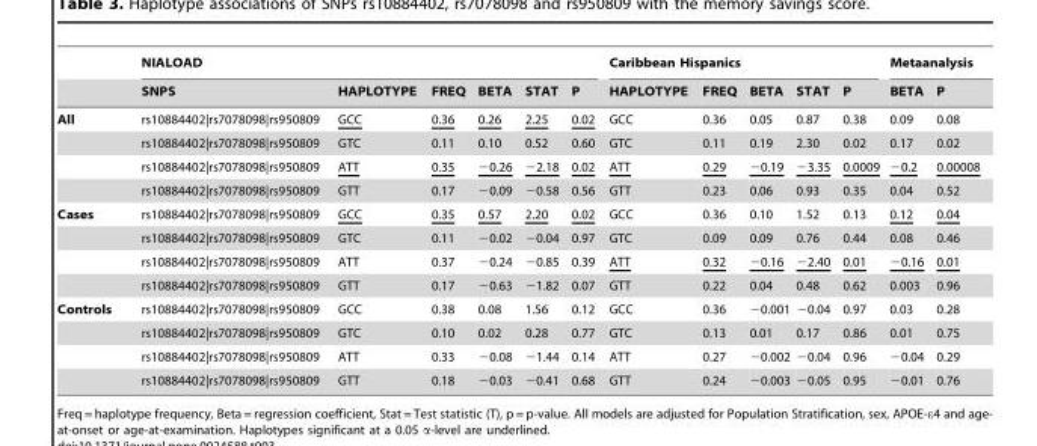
<table><thead><tr><td rowspan="2"></td><td colspan="6">NIALOAD</td><td colspan="5">Caribbean Hispanics</td><td colspan="2">Metaanalysis</td></tr><tr><td>SNPS</td><td>HAPLOTYPE</td><td>FREQ</td><td>BETA</td><td>STAT</td><td>P</td><td>HAPLOTYPE</td><td>FREQ</td><td>BETA</td><td>STAT</td><td>P</td><td>BETA</td><td>P</td></tr></thead><tbody><tr><td rowspan="4">All</td><td>rs10884402|rs7078098|rs950809</td><td>GCC</td><td>0.36</td><td>0.26</td><td>2.25</td><td>0.02</td><td>GCC</td><td>0.36</td><td>0.05</td><td>0.87</td><td>0.38</td><td>0.09</td><td>0.08</td></tr><tr><td>rs10884402|rs7078098|rs950809</td><td>GTC</td><td>0.11</td><td>0.10</td><td>0.52</td><td>0.60</td><td>GTC</td><td>0.11</td><td>0.19</td><td>2.30</td><td>0.02</td><td>0.17</td><td>0.02</td></tr><tr><td>rs10884402|rs7078098|rs950809</td><td>ATT</td><td>0.35</td><td>−0.26</td><td>−2.18</td><td>0.02</td><td>ATT</td><td>0.29</td><td>−0.19</td><td>−3.35</td><td>0.0009</td><td>−0.2</td><td>0.00008</td></tr><tr><td>rs10884402|rs7078098|rs950809</td><td>GTT</td><td>0.17</td><td>−0.09</td><td>−0.58</td><td>0.56</td><td>GTT</td><td>0.23</td><td>0.06</td><td>0.93</td><td>0.35</td><td>0.04</td><td>0.52</td></tr><tr><td rowspan="4">Cases</td><td>rs10884402|rs7078098|rs950809</td><td>GCC</td><td>0.35</td><td>0.57</td><td>2.20</td><td>0.02</td><td>GCC</td><td>0.36</td><td>0.10</td><td>1.52</td><td>0.13</td><td>0.12</td><td>0.04</td></tr><tr><td>rs10884402|rs7078098|rs950809</td><td>GTC</td><td>0.11</td><td>−0.02</td><td>−0.04</td><td>0.97</td><td>GTC</td><td>0.09</td><td>0.09</td><td>0.76</td><td>0.44</td><td>0.08</td><td>0.46</td></tr><tr><td>rs10884402|rs7078098|rs950809</td><td>ATT</td><td>0.37</td><td>−0.24</td><td>−0.85</td><td>0.39</td><td>ATT</td><td>0.32</td><td>−0.16</td><td>−2.40</td><td>0.01</td><td>−0.16</td><td>0.01</td></tr><tr><td>rs10884402|rs7078098|rs950809</td><td>GTT</td><td>0.17</td><td>−0.63</td><td>−1.82</td><td>0.07</td><td>GTT</td><td>0.22</td><td>0.04</td><td>0.48</td><td>0.62</td><td>0.003</td><td>0.96</td></tr><tr><td rowspan="4">Controls</td><td>rs10884402|rs7078098|rs950809</td><td>GCC</td><td>0.38</td><td>0.08</td><td>1.56</td><td>0.12</td><td>GCC</td><td>0.36</td><td>−0.001</td><td>−0.04</td><td>0.97</td><td>0.03</td><td>0.28</td></tr><tr><td>rs10884402|rs7078098|rs950809</td><td>GTC</td><td>0.10</td><td>0.02</td><td>0.28</td><td>0.77</td><td>GTC</td><td>0.13</td><td>0.01</td><td>0.17</td><td>0.86</td><td>0.01</td><td>0.75</td></tr><tr><td>rs10884402|rs7078098|rs950809</td><td>ATT</td><td>0.33</td><td>−0.08</td><td>−1.44</td><td>0.14</td><td>ATT</td><td>0.27</td><td>−0.002</td><td>−0.04</td><td>0.96</td><td>−0.04</td><td>0.29</td></tr><tr><td>rs10884402|rs7078098|rs950809</td><td>GTT</td><td>0.18</td><td>−0.03</td><td>−0.41</td><td>0.68</td><td>GTT</td><td>0.24</td><td>−0.003</td><td>−0.05</td><td>0.95</td><td>−0.01</td><td>0.76</td></tr></tbody></table>